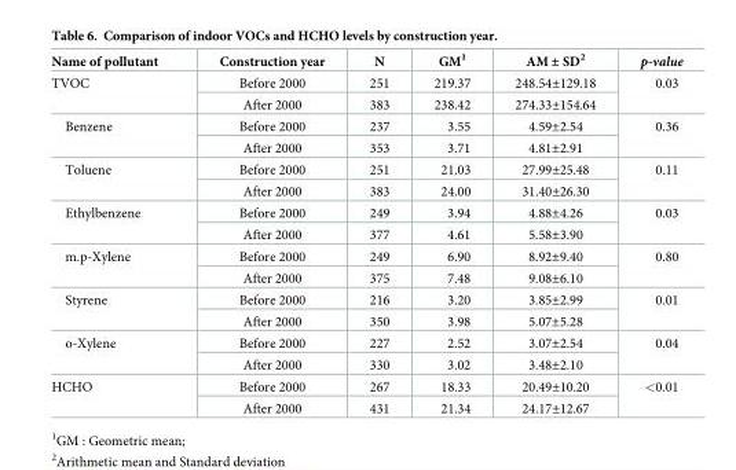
<table><thead><tr><td>Name of pollutant</td><td>Construction year</td><td>N</td><td>GM<sup>1</sup></td><td>AM ± SD<sup>2</sup></td><td>p-value</td></tr></thead><tbody><tr><td rowspan="2">TVOC</td><td>Before 2000</td><td>251</td><td>219.37</td><td>248.54±129.18</td><td rowspan="2">0.03</td></tr><tr><td>After 2000</td><td>383</td><td>238.42</td><td>274.33±154.64</td></tr><tr><td rowspan="2">Benzene</td><td>Before 2000</td><td>237</td><td>3.55</td><td>4.59±2.54</td><td rowspan="2">0.36</td></tr><tr><td>After 2000</td><td>353</td><td>3.71</td><td>4.81±2.91</td></tr><tr><td rowspan="2">Toluene</td><td>Before 2000</td><td>251</td><td>21.03</td><td>27.99±25.48</td><td rowspan="2">0.11</td></tr><tr><td>After 2000</td><td>383</td><td>24.00</td><td>31.40±26.30</td></tr><tr><td rowspan="2">Ethylbenzene</td><td>Before 2000</td><td>249</td><td>3.94</td><td>4.88±4.26</td><td rowspan="2">0.03</td></tr><tr><td>After 2000</td><td>377</td><td>4.61</td><td>5.58±3.90</td></tr><tr><td rowspan="2">m.p-Xylene</td><td>Before 2000</td><td>249</td><td>6.90</td><td>8.92±9.40</td><td rowspan="2">0.80</td></tr><tr><td>After 2000</td><td>375</td><td>7.48</td><td>9.08±6.10</td></tr><tr><td rowspan="2">Styrene</td><td>Before 2000</td><td>216</td><td>3.20</td><td>3.85±2.99</td><td rowspan="2">0.01</td></tr><tr><td>After 2000</td><td>350</td><td>3.98</td><td>5.07±5.28</td></tr><tr><td rowspan="2">o-Xylene</td><td>Before 2000</td><td>227</td><td>2.52</td><td>3.07±2.54</td><td rowspan="2">0.04</td></tr><tr><td>After 2000</td><td>330</td><td>3.02</td><td>3.48±2.10</td></tr><tr><td rowspan="2">HCHO</td><td>Before 2000</td><td>267</td><td>18.33</td><td>20.49±10.20</td><td rowspan="2">&lt;0.01</td></tr><tr><td>After 2000</td><td>431</td><td>21.34</td><td>24.17±12.67</td></tr></tbody></table>